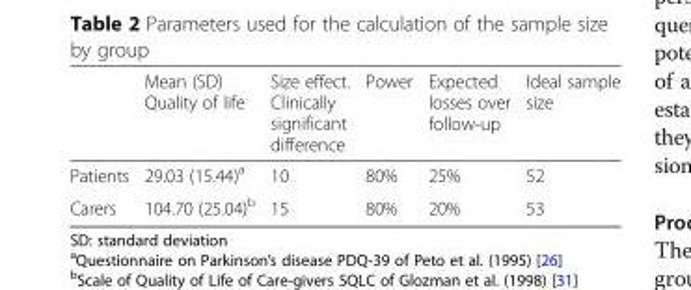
<table><thead><tr><td></td><td>Mean (SD) Quality of life</td><td>Size effect. Clinically significant difference</td><td>Power</td><td>Expected losses over follow-up</td><td>Ideal sample size</td></tr></thead><tbody><tr><td>Patients</td><td>29.03 (15.44)<sup>a</sup></td><td>10</td><td>80%</td><td>25%</td><td>52</td></tr><tr><td>Carers</td><td>104.70 (25.04)<sup>b</sup></td><td>15</td><td>80%</td><td>20%</td><td>53</td></tr></tbody></table>